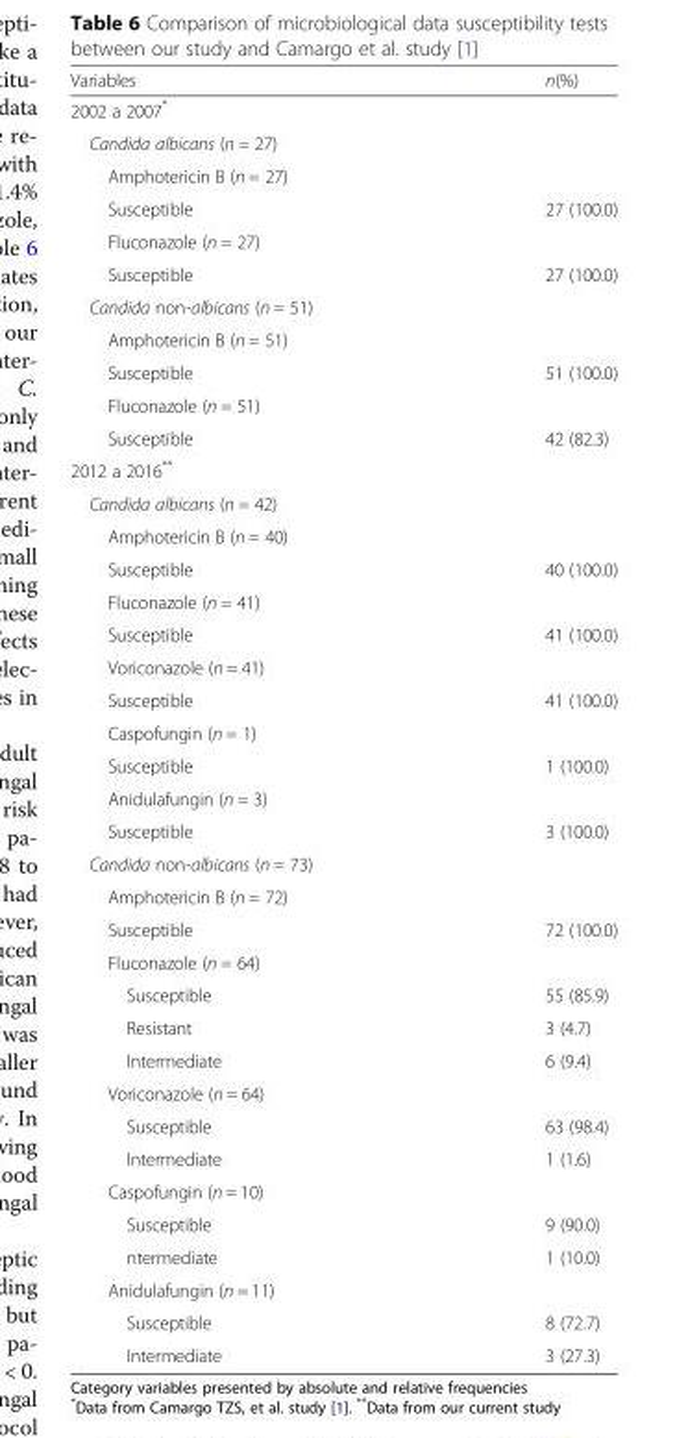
<table><thead><tr><td>Variables</td><td>n(%)</td></tr></thead><tbody><tr><td colspan="2">2002 a 2007*</td></tr><tr><td>Candida albicans (n = 27)</td><td rowspan="2"></td></tr><tr><td>Amphotericin B (n = 27)</td></tr><tr><td>Susceptible</td><td>27 (100.0)</td></tr><tr><td colspan="2">Fluconazole (n = 27)</td></tr><tr><td>Susceptible</td><td>27 (100.0)</td></tr><tr><td>Candida non-albicans (n = 51)</td><td rowspan="2"></td></tr><tr><td>Amphotericin B (n = 51)</td></tr><tr><td>Susceptible</td><td>51 (100.0)</td></tr><tr><td colspan="2">Fluconazole (n = 51)</td></tr><tr><td>Susceptible</td><td>42 (82.3)</td></tr><tr><td colspan="2">2012 a 2016**</td></tr><tr><td>Candida albicans (n = 42)</td><td rowspan="2"></td></tr><tr><td>Amphotericin B (n = 40)</td></tr><tr><td>Susceptible</td><td>40 (100.0)</td></tr><tr><td colspan="2">Fluconazole (n = 41)</td></tr><tr><td>Susceptible</td><td>41 (100.0)</td></tr><tr><td colspan="2">Voriconazole (n = 41)</td></tr><tr><td>Susceptible</td><td>41 (100.0)</td></tr><tr><td colspan="2">Caspofungin (n = 1)</td></tr><tr><td>Susceptible</td><td>1 (100.0)</td></tr><tr><td colspan="2">Anidulafungin (n = 3)</td></tr><tr><td>Susceptible</td><td>3 (100.0)</td></tr><tr><td>Candida non-albicans (n = 73)</td><td rowspan="2"></td></tr><tr><td>Amphotericin B (n = 72)</td></tr><tr><td>Susceptible</td><td>72 (100.0)</td></tr><tr><td colspan="2">Fluconazole (n = 64)</td></tr><tr><td>Susceptible</td><td>55 (85.9)</td></tr><tr><td>Resistant</td><td>3 (4.7)</td></tr><tr><td>Intermediate</td><td>6 (9.4)</td></tr><tr><td colspan="2">Voriconazole (n = 64)</td></tr><tr><td>Susceptible</td><td>63 (98.4)</td></tr><tr><td>Intermediate</td><td>1 (1.6)</td></tr><tr><td colspan="2">Caspofungin (n = 10)</td></tr><tr><td>Susceptible</td><td>9 (90.0)</td></tr><tr><td>ntermediate</td><td>1 (10.0)</td></tr><tr><td colspan="2">Anidulafungin (n = 11)</td></tr><tr><td>Susceptible</td><td>8 (72.7)</td></tr><tr><td>Intermediate</td><td>3 (27.3)</td></tr></tbody></table>